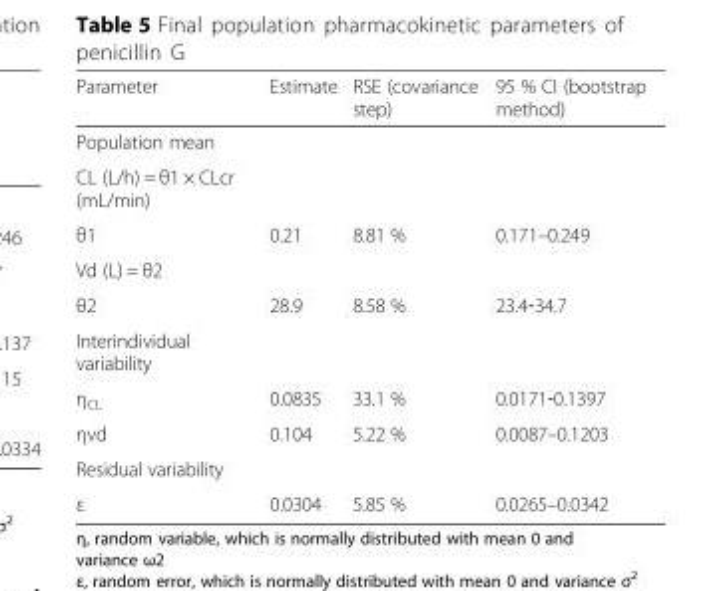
<table><thead><tr><td>Parameter</td><td>Estimate</td><td>RSE (covariance step)</td><td>95 % CI (bootstrap method)</td></tr></thead><tbody><tr><td colspan="4">Population mean</td></tr><tr><td colspan="4">CL (L/h) = θ1 × CLcr (mL/min)</td></tr><tr><td>θ1</td><td>0.21</td><td>8.81 %</td><td>0.171–0.249</td></tr><tr><td colspan="4">Vd (L) = θ2</td></tr><tr><td>θ2</td><td>28.9</td><td>8.58 %</td><td>23.4‐34.7</td></tr><tr><td colspan="4">Interindividual variability</td></tr><tr><td>η<sub>CL</sub></td><td>0.0835</td><td>33.1 %</td><td>0.0171‐0.1397</td></tr><tr><td>ηvd</td><td>0.104</td><td>5.22 %</td><td>0.0087–0.1203</td></tr><tr><td colspan="4">Residual variability</td></tr><tr><td>ε</td><td>0.0304</td><td>5.85 %</td><td>0.0265–0.0342</td></tr></tbody></table>